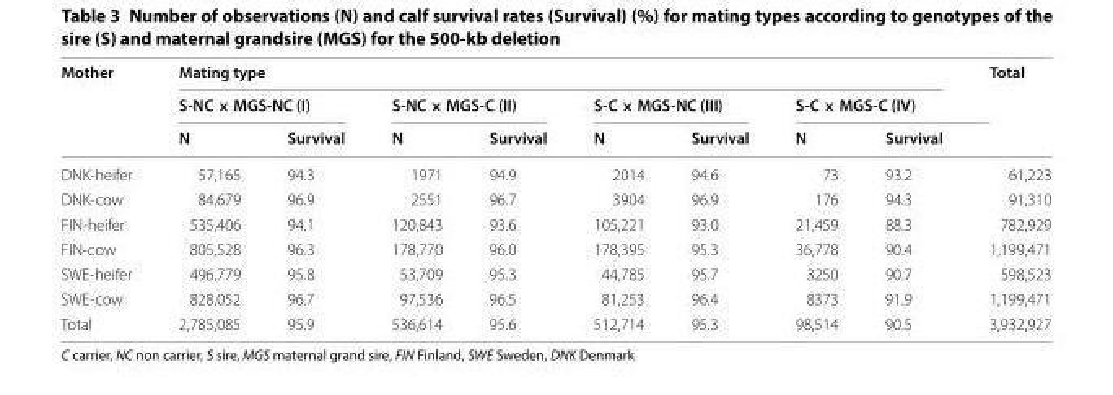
<table><thead><tr><td rowspan="3">Mother</td><td colspan="8">Mating type</td><td rowspan="3">Total</td></tr><tr><td colspan="2">S‑NC × MGS‑NC (I)</td><td colspan="2">S‑NC × MGS‑C (II)</td><td colspan="2">S‑C × MGS‑NC (III)</td><td colspan="2">S‑C × MGS‑C (IV)</td></tr><tr><td>N</td><td>Survival</td><td>N</td><td>Survival</td><td>N</td><td>Survival</td><td>N</td><td>Survival</td></tr></thead><tbody><tr><td>DNK‑heifer</td><td>57,165</td><td>94.3</td><td>1971</td><td>94.9</td><td>2014</td><td>94.6</td><td>73</td><td>93.2</td><td>61,223</td></tr><tr><td>DNK‑cow</td><td>84,679</td><td>96.9</td><td>2551</td><td>96.7</td><td>3904</td><td>96.9</td><td>176</td><td>94.3</td><td>91,310</td></tr><tr><td>FIN‑heifer</td><td>535,406</td><td>94.1</td><td>120,843</td><td>93.6</td><td>105,221</td><td>93.0</td><td>21,459</td><td>88.3</td><td>782,929</td></tr><tr><td>FIN‑cow</td><td>805,528</td><td>96.3</td><td>178,770</td><td>96.0</td><td>178,395</td><td>95.3</td><td>36,778</td><td>90.4</td><td>1,199,471</td></tr><tr><td>SWE‑heifer</td><td>496,779</td><td>95.8</td><td>53,709</td><td>95.3</td><td>44,785</td><td>95.7</td><td>3250</td><td>90.7</td><td>598,523</td></tr><tr><td>SWE‑cow</td><td>828,052</td><td>96.7</td><td>97,536</td><td>96.5</td><td>81,253</td><td>96.4</td><td>8373</td><td>91.9</td><td>1,199,471</td></tr><tr><td>Total</td><td>2,785,085</td><td>95.9</td><td>536,614</td><td>95.6</td><td>512,714</td><td>95.3</td><td>98,514</td><td>90.5</td><td>3,932,927</td></tr></tbody></table>